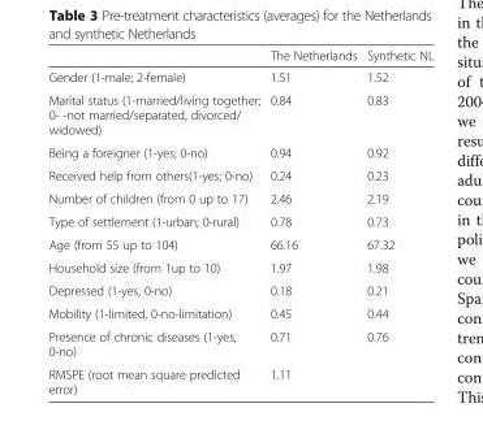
<table><thead><tr><td></td><td>The Netherlands</td><td>Synthetic NL</td></tr></thead><tbody><tr><td>Gender (1-male; 2-female)</td><td>1.51</td><td>1.52</td></tr><tr><td>Marital status (1-married/living together; 0- -not married/separated, divorced/ widowed)</td><td>0.84</td><td>0.83</td></tr><tr><td>Being a foreigner (1-yes; 0-no)</td><td>0.94</td><td>0.92</td></tr><tr><td>Received help from others(1-yes; 0-no)</td><td>0.24</td><td>0.23</td></tr><tr><td>Number of children (from 0 up to 17)</td><td>2.46</td><td>2.19</td></tr><tr><td>Type of settlement (1-urban; 0-rural)</td><td>0.78</td><td>0.73</td></tr><tr><td>Age (from 55 up to 104)</td><td>66.16</td><td>67.32</td></tr><tr><td>Household size (from 1up to 10)</td><td>1.97</td><td>1.98</td></tr><tr><td>Depressed (1-yes, 0-no)</td><td>0.18</td><td>0.21</td></tr><tr><td>Mobility (1-limited, 0-no-limitation)</td><td>0.45</td><td>0.44</td></tr><tr><td>Presence of chronic diseases (1-yes, 0-no)</td><td>0.71</td><td>0.76</td></tr><tr><td>RMSPE (root mean square predicted error)</td><td>1.11</td><td></td></tr></tbody></table>